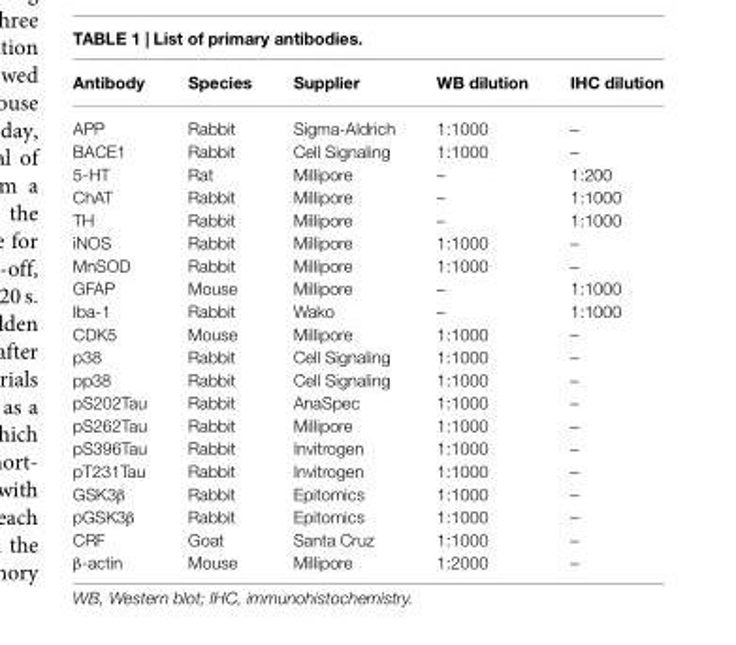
<table><thead><tr><td>Antibody</td><td>Species</td><td>Supplier</td><td>WB dilution</td><td>IHC dilution</td></tr></thead><tbody><tr><td>APP</td><td>Rabbit</td><td>Sigma-Aldrich</td><td>1:1000</td><td>–</td></tr><tr><td>BACE1</td><td>Rabbit</td><td>Cell Signaling</td><td>1:1000</td><td>–</td></tr><tr><td>5-HT</td><td>Rat</td><td>Millipore</td><td>–</td><td>1:200</td></tr><tr><td>ChAT</td><td>Rabbit</td><td>Millipore</td><td>–</td><td>1:1000</td></tr><tr><td>TH</td><td>Rabbit</td><td>Millipore</td><td>–</td><td>1:1000</td></tr><tr><td>iNOS</td><td>Rabbit</td><td>Millipore</td><td>1:1000</td><td>–</td></tr><tr><td>MnSOD</td><td>Rabbit</td><td>Millipore</td><td>1:1000</td><td>–</td></tr><tr><td>GFAP</td><td>Mouse</td><td>Millipore</td><td>–</td><td>1:1000</td></tr><tr><td>Iba-1</td><td>Rabbit</td><td>Wako</td><td>–</td><td>1:1000</td></tr><tr><td>CDK5</td><td>Mouse</td><td>Millipore</td><td>1:1000</td><td>–</td></tr><tr><td>p38</td><td>Rabbit</td><td>Cell Signaling</td><td>1:1000</td><td>–</td></tr><tr><td>pp38</td><td>Rabbit</td><td>Cell Signaling</td><td>1:1000</td><td>–</td></tr><tr><td>pS202Tau</td><td>Rabbit</td><td>AnaSpec</td><td>1:1000</td><td>–</td></tr><tr><td>pS262Tau</td><td>Rabbit</td><td>Millipore</td><td>1:1000</td><td>–</td></tr><tr><td>pS396Tau</td><td>Rabbit</td><td>Invitrogen</td><td>1:1000</td><td>–</td></tr><tr><td>pT231Tau</td><td>Rabbit</td><td>Invitrogen</td><td>1:1000</td><td>–</td></tr><tr><td>GSK3β</td><td>Rabbit</td><td>Epitomics</td><td>1:1000</td><td>–</td></tr><tr><td>pGSK3β</td><td>Rabbit</td><td>Epitomics</td><td>1:1000</td><td>–</td></tr><tr><td>CRF</td><td>Goat</td><td>Santa Cruz</td><td>1:1000</td><td>–</td></tr><tr><td>β-actin</td><td>Mouse</td><td>Millipore</td><td>1:2000</td><td>–</td></tr></tbody></table>